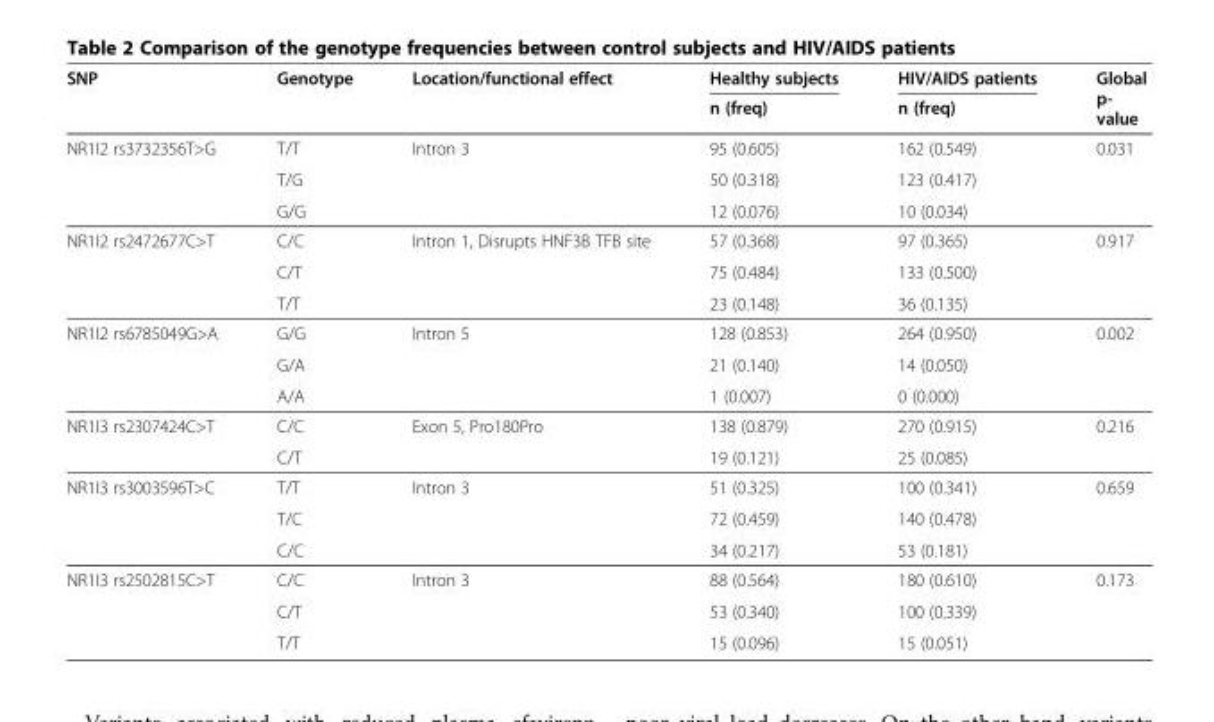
<table><thead><tr><td rowspan="2">SNP</td><td rowspan="2">Genotype</td><td rowspan="2">Location/functional effect</td><td rowspan="2">Healthy subjects n (freq)</td><td rowspan="2">HIV/AIDS patients n (freq)</td><td rowspan="2">Global p- value</td></tr><tr></tr></thead><tbody><tr><td rowspan="3">NR1I2 rs3732356T&gt;G</td><td>T/T</td><td>Intron 3</td><td>95 (0.605)</td><td>162 (0.549)</td><td>0.031</td></tr><tr><td>T/G</td><td></td><td>50 (0.318)</td><td>123 (0.417)</td><td></td></tr><tr><td>G/G</td><td></td><td>12 (0.076)</td><td>10 (0.034)</td><td></td></tr><tr><td rowspan="3">NR1I2 rs2472677C&gt;T</td><td>C/C</td><td rowspan="3">Intron 1, Disrupts HNF3B TFB site</td><td>57 (0.368)</td><td>97 (0.365)</td><td>0.917</td></tr><tr><td>C/T</td><td>75 (0.484)</td><td>133 (0.500)</td><td></td></tr><tr><td>T/T</td><td>23 (0.148)</td><td>36 (0.135)</td><td></td></tr><tr><td rowspan="3">NR1I2 rs6785049G&gt;A</td><td>G/G</td><td rowspan="3">Intron 5</td><td>128 (0.853)</td><td>264 (0.950)</td><td>0.002</td></tr><tr><td>G/A</td><td>21 (0.140)</td><td>14 (0.050)</td><td></td></tr><tr><td>A/A</td><td>1 (0.007)</td><td>0 (0.000)</td><td></td></tr><tr><td rowspan="2">NR1I3 rs2307424C&gt;T</td><td>C/C</td><td rowspan="2">Exon 5, Pro180Pro</td><td>138 (0.879)</td><td>270 (0.915)</td><td>0.216</td></tr><tr><td>C/T</td><td>19 (0.121)</td><td>25 (0.085)</td><td></td></tr><tr><td rowspan="3">NR1I3 rs3003596T&gt;C</td><td>T/T</td><td rowspan="3">Intron 3</td><td>51 (0.325)</td><td>100 (0.341)</td><td>0.659</td></tr><tr><td>T/C</td><td>72 (0.459)</td><td>140 (0.478)</td><td></td></tr><tr><td>C/C</td><td>34 (0.217)</td><td>53 (0.181)</td><td></td></tr><tr><td rowspan="3">NR1I3 rs2502815C&gt;T</td><td>C/C</td><td rowspan="3">Intron 3</td><td>88 (0.564)</td><td>180 (0.610)</td><td>0.173</td></tr><tr><td>C/T</td><td>53 (0.340)</td><td>100 (0.339)</td><td></td></tr><tr><td>T/T</td><td>15 (0.096)</td><td>15 (0.051)</td><td></td></tr></tbody></table>